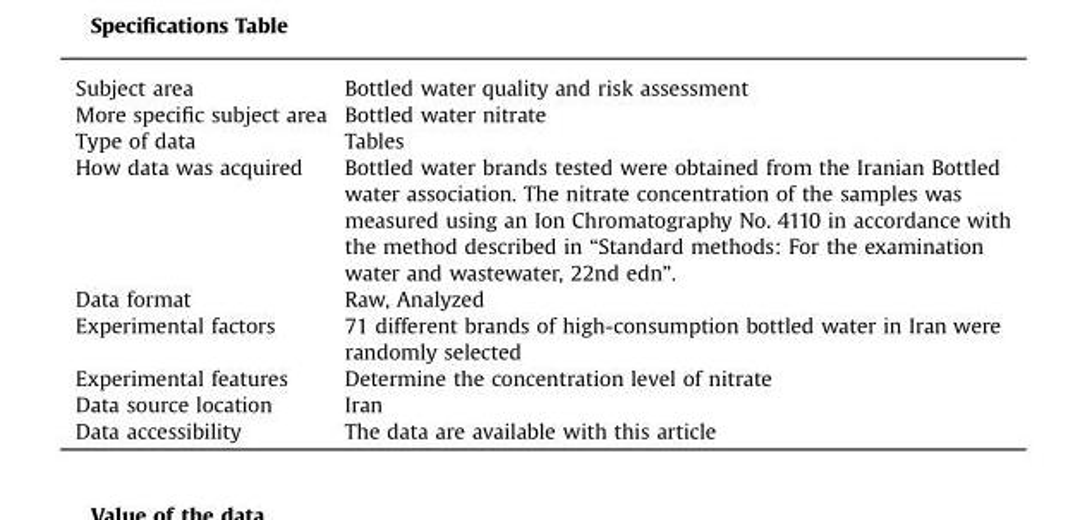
<table><tbody><tr><td>Subject area</td><td>Bottled water quality and risk assessment</td></tr><tr><td>More specific subject area</td><td>Bottled water nitrate</td></tr><tr><td>Type of data</td><td>Tables</td></tr><tr><td>How data was acquired</td><td>Bottled water brands tested were obtained from the Iranian Bottled water association. The nitrate concentration of the samples was measured using an Ion Chromatography No. 4110 in accordance with the method described in “Standard methods: For the examination water and wastewater, 22nd edn”.</td></tr><tr><td>Data format</td><td>Raw, Analyzed</td></tr><tr><td>Experimental factors</td><td>71 different brands of high-consumption bottled water in Iran were randomly selected</td></tr><tr><td>Experimental features</td><td>Determine the concentration level of nitrate</td></tr><tr><td>Data source location</td><td>Iran</td></tr><tr><td>Data accessibility</td><td>The data are available with this article</td></tr></tbody></table>